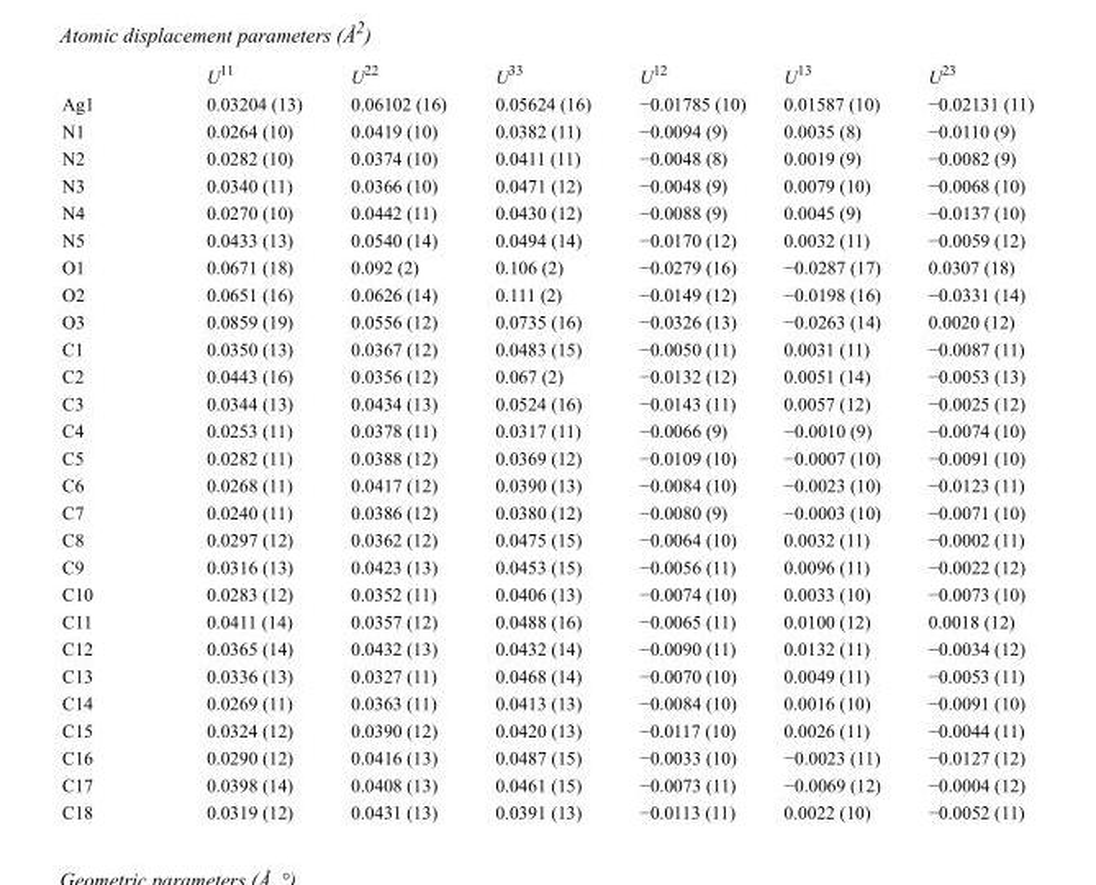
<table><thead><tr><td></td><td>U<sup>11</sup></td><td>U<sup>22</sup></td><td>U<sup>33</sup></td><td>U<sup>12</sup></td><td>U<sup>13</sup></td><td>U<sup>23</sup></td></tr></thead><tbody><tr><td>Ag1</td><td>0.03204 (13)</td><td>0.06102 (16)</td><td>0.05624 (16)</td><td>−0.01785 (10)</td><td>0.01587 (10)</td><td>−0.02131 (11)</td></tr><tr><td>N1</td><td>0.0264 (10)</td><td>0.0419 (10)</td><td>0.0382 (11)</td><td>−0.0094 (9)</td><td>0.0035 (8)</td><td>−0.0110 (9)</td></tr><tr><td>N2</td><td>0.0282 (10)</td><td>0.0374 (10)</td><td>0.0411 (11)</td><td>−0.0048 (8)</td><td>0.0019 (9)</td><td>−0.0082 (9)</td></tr><tr><td>N3</td><td>0.0340 (11)</td><td>0.0366 (10)</td><td>0.0471 (12)</td><td>−0.0048 (9)</td><td>0.0079 (10)</td><td>−0.0068 (10)</td></tr><tr><td>N4</td><td>0.0270 (10)</td><td>0.0442 (11)</td><td>0.0430 (12)</td><td>−0.0088 (9)</td><td>0.0045 (9)</td><td>−0.0137 (10)</td></tr><tr><td>N5</td><td>0.0433 (13)</td><td>0.0540 (14)</td><td>0.0494 (14)</td><td>−0.0170 (12)</td><td>0.0032 (11)</td><td>−0.0059 (12)</td></tr><tr><td>O1</td><td>0.0671 (18)</td><td>0.092 (2)</td><td>0.106 (2)</td><td>−0.0279 (16)</td><td>−0.0287 (17)</td><td>0.0307 (18)</td></tr><tr><td>O2</td><td>0.0651 (16)</td><td>0.0626 (14)</td><td>0.111 (2)</td><td>−0.0149 (12)</td><td>−0.0198 (16)</td><td>−0.0331 (14)</td></tr><tr><td>O3</td><td>0.0859 (19)</td><td>0.0556 (12)</td><td>0.0735 (16)</td><td>−0.0326 (13)</td><td>−0.0263 (14)</td><td>0.0020 (12)</td></tr><tr><td>C1</td><td>0.0350 (13)</td><td>0.0367 (12)</td><td>0.0483 (15)</td><td>−0.0050 (11)</td><td>0.0031 (11)</td><td>−0.0087 (11)</td></tr><tr><td>C2</td><td>0.0443 (16)</td><td>0.0356 (12)</td><td>0.067 (2)</td><td>−0.0132 (12)</td><td>0.0051 (14)</td><td>−0.0053 (13)</td></tr><tr><td>C3</td><td>0.0344 (13)</td><td>0.0434 (13)</td><td>0.0524 (16)</td><td>−0.0143 (11)</td><td>0.0057 (12)</td><td>−0.0025 (12)</td></tr><tr><td>C4</td><td>0.0253 (11)</td><td>0.0378 (11)</td><td>0.0317 (11)</td><td>−0.0066 (9)</td><td>−0.0010 (9)</td><td>−0.0074 (10)</td></tr><tr><td>C5</td><td>0.0282 (11)</td><td>0.0388 (12)</td><td>0.0369 (12)</td><td>−0.0109 (10)</td><td>−0.0007 (10)</td><td>−0.0091 (10)</td></tr><tr><td>C6</td><td>0.0268 (11)</td><td>0.0417 (12)</td><td>0.0390 (13)</td><td>−0.0084 (10)</td><td>−0.0023 (10)</td><td>−0.0123 (11)</td></tr><tr><td>C7</td><td>0.0240 (11)</td><td>0.0386 (12)</td><td>0.0380 (12)</td><td>−0.0080 (9)</td><td>−0.0003 (10)</td><td>−0.0071 (10)</td></tr><tr><td>C8</td><td>0.0297 (12)</td><td>0.0362 (12)</td><td>0.0475 (15)</td><td>−0.0064 (10)</td><td>0.0032 (11)</td><td>−0.0002 (11)</td></tr><tr><td>C9</td><td>0.0316 (13)</td><td>0.0423 (13)</td><td>0.0453 (15)</td><td>−0.0056 (11)</td><td>0.0096 (11)</td><td>−0.0022 (12)</td></tr><tr><td>C10</td><td>0.0283 (12)</td><td>0.0352 (11)</td><td>0.0406 (13)</td><td>−0.0074 (10)</td><td>0.0033 (10)</td><td>−0.0073 (10)</td></tr><tr><td>C11</td><td>0.0411 (14)</td><td>0.0357 (12)</td><td>0.0488 (16)</td><td>−0.0065 (11)</td><td>0.0100 (12)</td><td>0.0018 (12)</td></tr><tr><td>C12</td><td>0.0365 (14)</td><td>0.0432 (13)</td><td>0.0432 (14)</td><td>−0.0090 (11)</td><td>0.0132 (11)</td><td>−0.0034 (12)</td></tr><tr><td>C13</td><td>0.0336 (13)</td><td>0.0327 (11)</td><td>0.0468 (14)</td><td>−0.0070 (10)</td><td>0.0049 (11)</td><td>−0.0053 (11)</td></tr><tr><td>C14</td><td>0.0269 (11)</td><td>0.0363 (11)</td><td>0.0413 (13)</td><td>−0.0084 (10)</td><td>0.0016 (10)</td><td>−0.0091 (10)</td></tr><tr><td>C15</td><td>0.0324 (12)</td><td>0.0390 (12)</td><td>0.0420 (13)</td><td>−0.0117 (10)</td><td>0.0026 (11)</td><td>−0.0044 (11)</td></tr><tr><td>C16</td><td>0.0290 (12)</td><td>0.0416 (13)</td><td>0.0487 (15)</td><td>−0.0033 (10)</td><td>−0.0023 (11)</td><td>−0.0127 (12)</td></tr><tr><td>C17</td><td>0.0398 (14)</td><td>0.0408 (13)</td><td>0.0461 (15)</td><td>−0.0073 (11)</td><td>−0.0069 (12)</td><td>−0.0004 (12)</td></tr><tr><td>C18</td><td>0.0319 (12)</td><td>0.0431 (13)</td><td>0.0391 (13)</td><td>−0.0113 (11)</td><td>0.0022 (10)</td><td>−0.0052 (11)</td></tr></tbody></table>